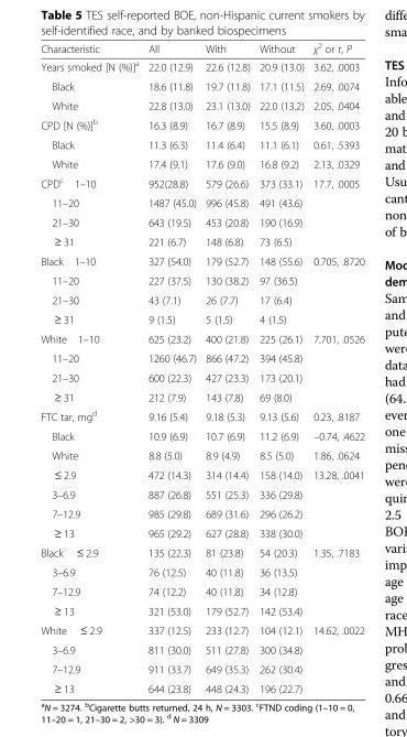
<table><thead><tr><td>Characteristic</td><td>All</td><td>With</td><td>Without</td><td>χ<sup>2</sup> or t, P</td></tr></thead><tbody><tr><td>Years smoked [N (%)]<sup>a</sup></td><td>22.0 (12.9)</td><td>22.6 (12.8)</td><td>20.9 (13.0)</td><td>3.62, .0003</td></tr><tr><td>Black</td><td>18.6 (11.8)</td><td>19.7 (11.8)</td><td>17.1 (11.5)</td><td>2.69, .0074</td></tr><tr><td>White</td><td>22.8 (13.0)</td><td>23.1 (13.0)</td><td>22.0 (13.2)</td><td>2.05, .0404</td></tr><tr><td>CPD [N (%)]<sup>b</sup></td><td>16.3 (8.9)</td><td>16.7 (8.9)</td><td>15.5 (8.9)</td><td>3.60, .0003</td></tr><tr><td>Black</td><td>11.3 (6.3)</td><td>11.4 (6.4)</td><td>11.1 (6.1)</td><td>0.61, .5393</td></tr><tr><td>White</td><td>17.4 (9.1)</td><td>17.6 (9.0)</td><td>16.8 (9.2)</td><td>2.13, .0329</td></tr><tr><td>CPD<sup>c</sup> 1–10</td><td>952(28.8)</td><td>579 (26.6)</td><td>373 (33.1)</td><td>17.7, .0005</td></tr><tr><td>11–20</td><td>1487 (45.0)</td><td>996 (45.8)</td><td>491 (43.6)</td><td></td></tr><tr><td>21–30</td><td>643 (19.5)</td><td>453 (20.8)</td><td>190 (16.9)</td><td></td></tr><tr><td>≥ 31</td><td>221 (6.7)</td><td>148 (6.8)</td><td>73 (6.5)</td><td></td></tr><tr><td>Black 1–10</td><td>327 (54.0)</td><td>179 (52.7)</td><td>148 (55.6)</td><td>0.705, .8720</td></tr><tr><td>11–20</td><td>227 (37.5)</td><td>130 (38.2)</td><td>97 (36.5)</td><td></td></tr><tr><td>21–30</td><td>43 (7.1)</td><td>26 (7.7)</td><td>17 (6.4)</td><td></td></tr><tr><td>≥ 31</td><td>9 (1.5)</td><td>5 (1.5)</td><td>4 (1.5)</td><td></td></tr><tr><td>White 1–10</td><td>625 (23.2)</td><td>400 (21.8)</td><td>225 (26.1)</td><td>7.701, .0526</td></tr><tr><td>11–20</td><td>1260 (46.7)</td><td>866 (47.2)</td><td>394 (45.8)</td><td></td></tr><tr><td>21–30</td><td>600 (22.3)</td><td>427 (23.3)</td><td>173 (20.1)</td><td></td></tr><tr><td>≥ 31</td><td>212 (7.9)</td><td>143 (7.8)</td><td>69 (8.0)</td><td></td></tr><tr><td>FTC tar, mg<sup>d</sup></td><td>9.16 (5.4)</td><td>9.18 (5.3)</td><td>9.13 (5.6)</td><td>0.23, .8187</td></tr><tr><td>Black</td><td>10.9 (6.9)</td><td>10.7 (6.9)</td><td>11.2 (6.9)</td><td>–0.74, .4622</td></tr><tr><td>White</td><td>8.8 (5.0)</td><td>8.9 (4.9)</td><td>8.5 (5.0)</td><td>1.86, .0624</td></tr><tr><td>≤ 2.9</td><td>472 (14.3)</td><td>314 (14.4)</td><td>158 (14.0)</td><td>13.28, .0041</td></tr><tr><td>3–6.9</td><td>887 (26.8)</td><td>551 (25.3)</td><td>336 (29.8)</td><td></td></tr><tr><td>7–12.9</td><td>985 (29.8)</td><td>689 (31.6)</td><td>296 (26.2)</td><td></td></tr><tr><td>≥ 13</td><td>965 (29.2)</td><td>627 (28.8)</td><td>338 (30.0)</td><td></td></tr><tr><td>Black ≤ 2.9</td><td>135 (22.3)</td><td>81 (23.8)</td><td>54 (20.3)</td><td>1.35, .7183</td></tr><tr><td>3–6.9</td><td>76 (12.5)</td><td>40 (11.8)</td><td>36 (13.5)</td><td></td></tr><tr><td>7–12.9</td><td>74 (12.2)</td><td>40 (11.8)</td><td>34 (12.8)</td><td></td></tr><tr><td>≥ 13</td><td>321 (53.0)</td><td>179 (52.7)</td><td>142 (53.4)</td><td></td></tr><tr><td>White ≤ 2.9</td><td>337 (12.5)</td><td>233 (12.7)</td><td>104 (12.1)</td><td>14.62, .0022</td></tr><tr><td>3–6.9</td><td>811 (30.0)</td><td>511 (27.8)</td><td>300 (34.8)</td><td></td></tr><tr><td>7–12.9</td><td>911 (33.7)</td><td>649 (35.3)</td><td>262 (30.4)</td><td></td></tr><tr><td>≥ 13</td><td>644 (23.8)</td><td>448 (24.3)</td><td>196 (22.7)</td><td></td></tr></tbody></table>